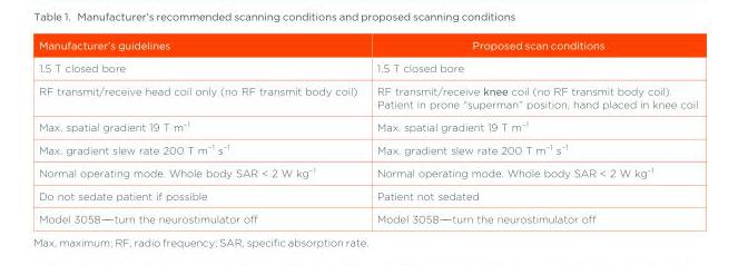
<table><thead><tr><td>Manufacturer’s guidelines<sup>3</sup></td><td>Proposed scan conditions</td></tr></thead><tbody><tr><td>1.5 T closed bore</td><td>1.5 T closed bore</td></tr><tr><td>RF transmit/receive head coil only (no RF transmit body coil)</td><td>RF transmit/receive knee coil (no RF transmit body coil). Patient in prone “superman” position, hand placed in knee coil</td></tr><tr><td>Max. spatial gradient 19 T m<sup>–1</sup></td><td>Max. spatial gradient 19 T m<sup>–1</sup></td></tr><tr><td>Max. gradient slew rate 200 T m<sup>–1</sup> s<sup>–1</sup></td><td>Max. gradient slew rate 200 T m<sup>–1</sup> s<sup>–1</sup></td></tr><tr><td>Normal operating mode. Whole body SAR &lt; 2 W kg<sup>–1</sup></td><td>Normal operating mode. Whole body SAR &lt; 2 W kg<sup>–1</sup></td></tr><tr><td>Do not sedate patient if possible</td><td>Patient not sedated</td></tr><tr><td>Model 3058——turn the neurostimulator off</td><td>Model 3058——turn the neurostimulator off</td></tr></tbody></table>